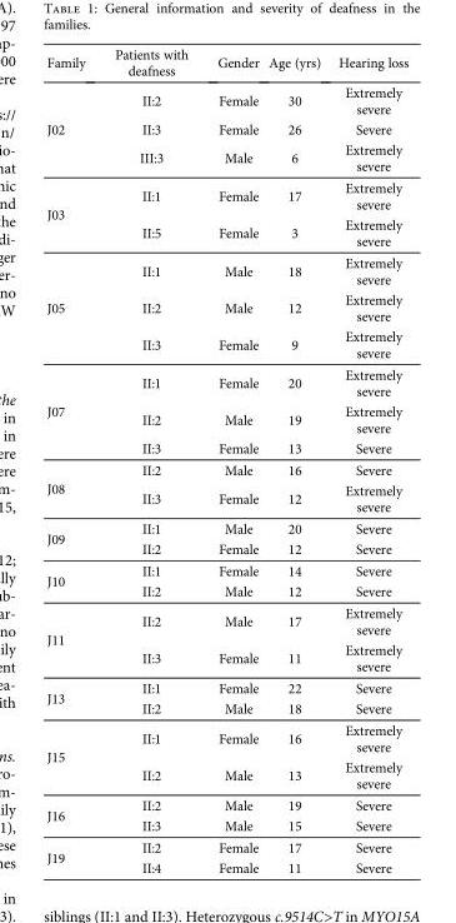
<table><thead><tr><td>Family</td><td>Patients with deafness</td><td>Gender</td><td>Age (yrs)</td><td>Hearing loss</td></tr></thead><tbody><tr><td rowspan="3">J02</td><td>II:2</td><td>Female</td><td>30</td><td>Extremely severe</td></tr><tr><td>II:3</td><td>Female</td><td>26</td><td>Severe</td></tr><tr><td>III:3</td><td>Male</td><td>6</td><td>Extremely severe</td></tr><tr><td rowspan="2">J03</td><td>II:1</td><td>Female</td><td>17</td><td>Extremely severe</td></tr><tr><td>II:5</td><td>Female</td><td>3</td><td>Extremely severe</td></tr><tr><td rowspan="3">J05</td><td>II:1</td><td>Male</td><td>18</td><td>Extremely severe</td></tr><tr><td>II:2</td><td>Male</td><td>12</td><td>Extremely severe</td></tr><tr><td>II:3</td><td>Female</td><td>9</td><td>Extremely severe</td></tr><tr><td rowspan="3">J07</td><td>II:1</td><td>Female</td><td>20</td><td>Extremely severe</td></tr><tr><td>II:2</td><td>Male</td><td>19</td><td>Extremely severe</td></tr><tr><td>II:3</td><td>Female</td><td>13</td><td>Severe</td></tr><tr><td rowspan="2">J08</td><td>II:2</td><td>Male</td><td>16</td><td>Severe</td></tr><tr><td>II:3</td><td>Female</td><td>12</td><td>Extremely severe</td></tr><tr><td rowspan="2">J09</td><td>II:1</td><td>Male</td><td>20</td><td>Severe</td></tr><tr><td>II:2</td><td>Female</td><td>12</td><td>Severe</td></tr><tr><td rowspan="2">J10</td><td>II:1</td><td>Female</td><td>14</td><td>Severe</td></tr><tr><td>II:2</td><td>Male</td><td>12</td><td>Severe</td></tr><tr><td rowspan="2">J11</td><td>II:2</td><td>Male</td><td>17</td><td>Extremely severe</td></tr><tr><td>II:3</td><td>Female</td><td>11</td><td>Extremely severe</td></tr><tr><td rowspan="2">J13</td><td>II:1</td><td>Female</td><td>22</td><td>Severe</td></tr><tr><td>II:2</td><td>Male</td><td>18</td><td>Severe</td></tr><tr><td rowspan="2">J15</td><td>II:1</td><td>Female</td><td>16</td><td>Extremely severe</td></tr><tr><td>II:2</td><td>Male</td><td>13</td><td>Extremely severe</td></tr><tr><td rowspan="2">J16</td><td>II:2</td><td>Male</td><td>19</td><td>Severe</td></tr><tr><td>II:3</td><td>Male</td><td>15</td><td>Severe</td></tr><tr><td rowspan="2">J19</td><td>II:2</td><td>Female</td><td>17</td><td>Severe</td></tr><tr><td>II:4</td><td>Female</td><td>11</td><td>Severe</td></tr></tbody></table>